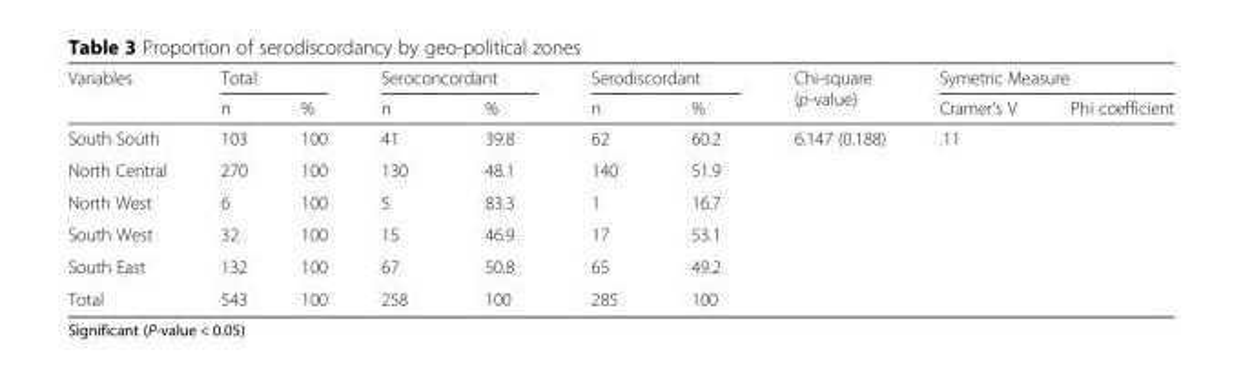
<table><thead><tr><td rowspan="2">Variables</td><td colspan="2">Total</td><td colspan="2">Seroconcordant</td><td colspan="2">Serodiscordant</td><td rowspan="2">Chi-square (p-value)</td><td colspan="2">Symetric Measure</td></tr><tr><td>n</td><td>%</td><td>n</td><td>%</td><td>n</td><td>%</td><td>Cramer’s V</td><td>Phi coefficient</td></tr></thead><tbody><tr><td>South South</td><td>103</td><td>100</td><td>41</td><td>39.8</td><td>62</td><td>60.2</td><td>6.147 (0.188)</td><td>.11</td><td></td></tr><tr><td>North Central</td><td>270</td><td>100</td><td>130</td><td>48.1</td><td>140</td><td>51.9</td><td rowspan="5" colspan="3"></td></tr><tr><td>North West</td><td>6</td><td>100</td><td>5</td><td>83.3</td><td>1</td><td>16.7</td></tr><tr><td>South West</td><td>32</td><td>100</td><td>15</td><td>46.9</td><td>17</td><td>53.1</td></tr><tr><td>South East</td><td>132</td><td>100</td><td>67</td><td>50.8</td><td>65</td><td>49.2</td></tr><tr><td>Total</td><td>543</td><td>100</td><td>258</td><td>100</td><td>285</td><td>100</td></tr></tbody></table>